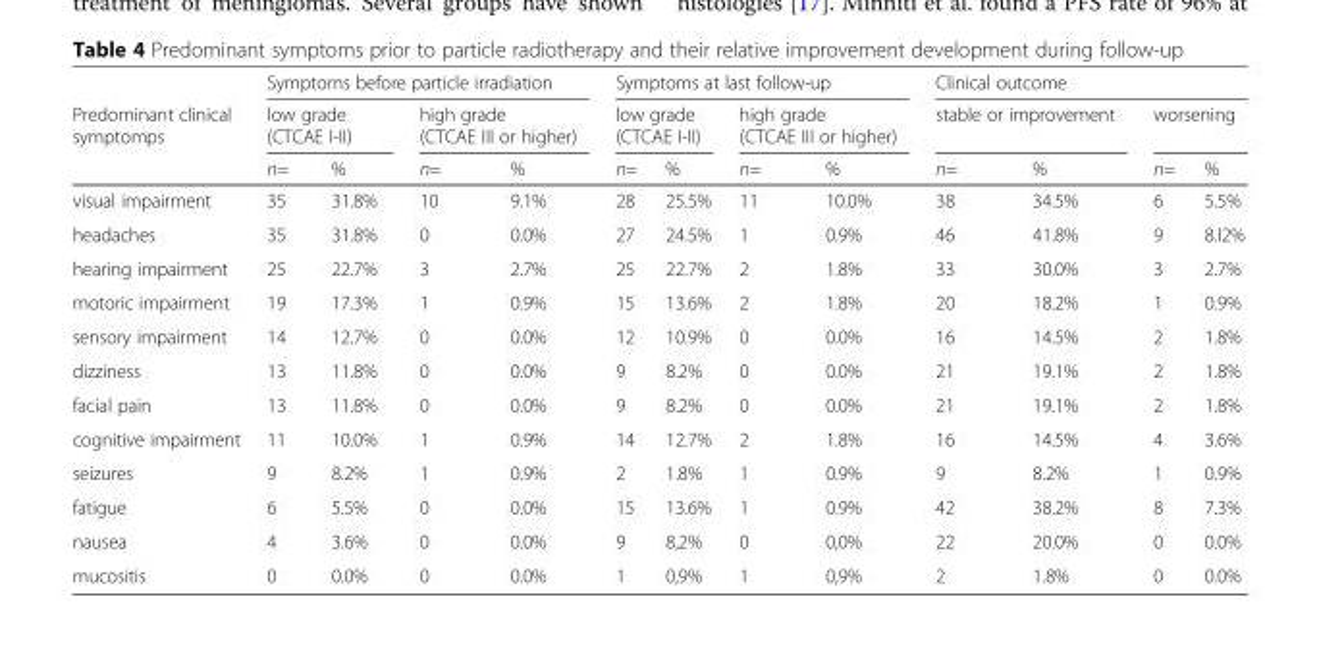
<table><thead><tr><td rowspan="3">Predominant clinical symptomps</td><td colspan="4">Symptoms before particle irradiation</td><td colspan="4">Symptoms at last follow-up</td><td colspan="4">Clinical outcome</td></tr><tr><td colspan="2">low grade (CTCAE I-II)</td><td colspan="2">high grade (CTCAE III or higher)</td><td colspan="2">low grade (CTCAE I-II)</td><td colspan="2">high grade (CTCAE III or higher)</td><td colspan="2">stable or improvement</td><td colspan="2">worsening</td></tr><tr><td>n=</td><td>%</td><td>n=</td><td>%</td><td>n=</td><td>%</td><td>n=</td><td>%</td><td>n=</td><td>%</td><td>n=</td><td>%</td></tr></thead><tbody><tr><td>visual impairment</td><td>35</td><td>31.8%</td><td>10</td><td>9.1%</td><td>28</td><td>25.5%</td><td>11</td><td>10.0%</td><td>38</td><td>34.5%</td><td>6</td><td>5.5%</td></tr><tr><td>headaches</td><td>35</td><td>31.8%</td><td>0</td><td>0.0%</td><td>27</td><td>24.5%</td><td>1</td><td>0.9%</td><td>46</td><td>41.8%</td><td>9</td><td>8.l2%</td></tr><tr><td>hearing impairment</td><td>25</td><td>22.7%</td><td>3</td><td>2.7%</td><td>25</td><td>22.7%</td><td>2</td><td>1.8%</td><td>33</td><td>30.0%</td><td>3</td><td>2.7%</td></tr><tr><td>motoric impairment</td><td>19</td><td>17.3%</td><td>1</td><td>0.9%</td><td>15</td><td>13.6%</td><td>2</td><td>1.8%</td><td>20</td><td>18.2%</td><td>1</td><td>0.9%</td></tr><tr><td>sensory impairment</td><td>14</td><td>12.7%</td><td>0</td><td>0.0%</td><td>12</td><td>10.9%</td><td>0</td><td>0.0%</td><td>16</td><td>14.5%</td><td>2</td><td>1.8%</td></tr><tr><td>dizziness</td><td>13</td><td>11.8%</td><td>0</td><td>0.0%</td><td>9</td><td>8.2%</td><td>0</td><td>0.0%</td><td>21</td><td>19.1%</td><td>2</td><td>1.8%</td></tr><tr><td>facial pain</td><td>13</td><td>11.8%</td><td>0</td><td>0.0%</td><td>9</td><td>8.2%</td><td>0</td><td>0.0%</td><td>21</td><td>19.1%</td><td>2</td><td>1.8%</td></tr><tr><td>cognitive impairment</td><td>11</td><td>10.0%</td><td>1</td><td>0.9%</td><td>14</td><td>12.7%</td><td>2</td><td>1.8%</td><td>16</td><td>14.5%</td><td>4</td><td>3.6%</td></tr><tr><td>seizures</td><td>9</td><td>8.2%</td><td>1</td><td>0.9%</td><td>2</td><td>1.8%</td><td>1</td><td>0.9%</td><td>9</td><td>8.2%</td><td>1</td><td>0.9%</td></tr><tr><td>fatigue</td><td>6</td><td>5.5%</td><td>0</td><td>0.0%</td><td>15</td><td>13.6%</td><td>1</td><td>0.9%</td><td>42</td><td>38.2%</td><td>8</td><td>7.3%</td></tr><tr><td>nausea</td><td>4</td><td>3.6%</td><td>0</td><td>0.0%</td><td>9</td><td>8,2%</td><td>0</td><td>0,0%</td><td>22</td><td>20.0%</td><td>0</td><td>0.0%</td></tr><tr><td>mucositis</td><td>0</td><td>0.0%</td><td>0</td><td>0.0%</td><td>1</td><td>0,9%</td><td>1</td><td>0,9%</td><td>2</td><td>1.8%</td><td>0</td><td>0.0%</td></tr></tbody></table>